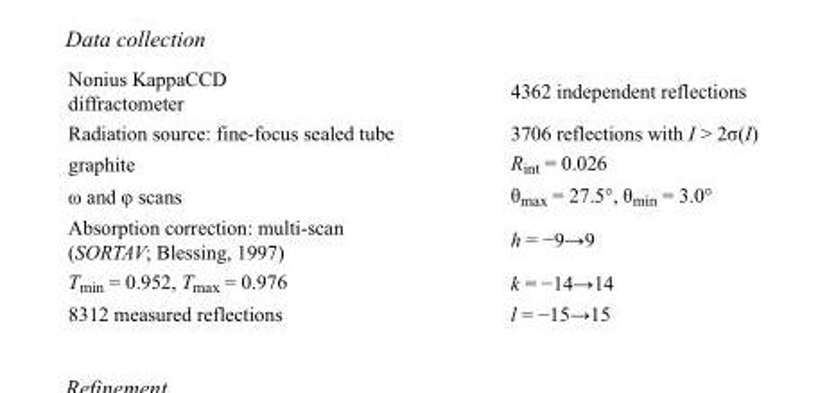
<table><tbody><tr><td>Nonius KappaCCD diffractometer</td><td>4362 independent reflections</td></tr><tr><td>Radiation source: fine-focus sealed tube</td><td>3706 reflections with I &gt; 2σ(I)</td></tr><tr><td>graphite</td><td>R<sub>int</sub> = 0.026</td></tr><tr><td>ω and φ scans</td><td>θ<sub>max</sub> = 27.5°, θ<sub>min</sub> = 3.0°</td></tr><tr><td>Absorption correction: multi-scan (SORTAV; Blessing, 1997)</td><td>h = −9→9</td></tr><tr><td>T<sub>min</sub> = 0.952, T<sub>max</sub> = 0.976</td><td>k = −14→14</td></tr><tr><td>8312 measured reflections</td><td>l = −15→15</td></tr></tbody></table>